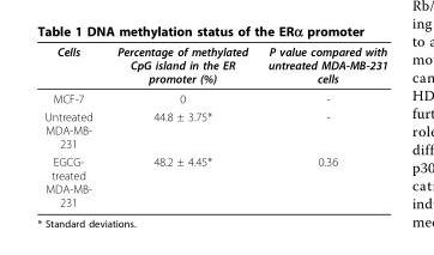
<table><thead><tr><td>Cells</td><td>Percentage of methylated CpG island in the ER promoter (%)</td><td>P value compared with untreated MDA-MB-231 cells</td></tr></thead><tbody><tr><td>MCF-7</td><td>0</td><td>-</td></tr><tr><td>Untreated MDA-MB- 231</td><td>44.8 ± 3.75*</td><td>-</td></tr><tr><td>EGCG- treated MDA-MB- 231</td><td>48.2 ± 4.45*</td><td>0.36</td></tr></tbody></table>